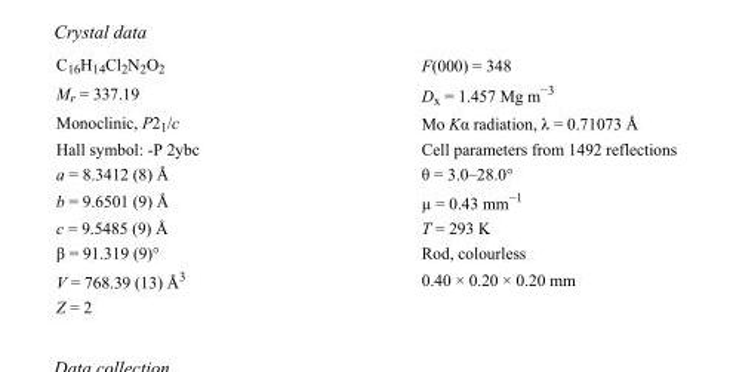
<table><tbody><tr><td>C<sub>16</sub>H<sub>14</sub>Cl<sub>2</sub>N<sub>2</sub>O<sub>2</sub></td><td>F(000) = 348</td></tr><tr><td>M<sub>r</sub> = 337.19</td><td>D<sub>x</sub> = 1.457 Mg m<sup>−3</sup></td></tr><tr><td>Monoclinic, P2<sub>1</sub>/c</td><td>Mo Kα radiation, λ = 0.71073 Å</td></tr><tr><td>Hall symbol: -P 2ybc</td><td>Cell parameters from 1492 reflections</td></tr><tr><td>a = 8.3412 (8) Å</td><td>θ = 3.0–28.0°</td></tr><tr><td>b = 9.6501 (9) Å</td><td>µ = 0.43 mm<sup>−1</sup></td></tr><tr><td>c = 9.5485 (9) Å</td><td>T = 293 K</td></tr><tr><td>β = 91.319 (9)°</td><td>Rod, colourless</td></tr><tr><td>V = 768.39 (13) Å<sup>3</sup></td><td>0.40 × 0.20 × 0.20 mm</td></tr><tr><td>Z = 2</td><td></td></tr></tbody></table>